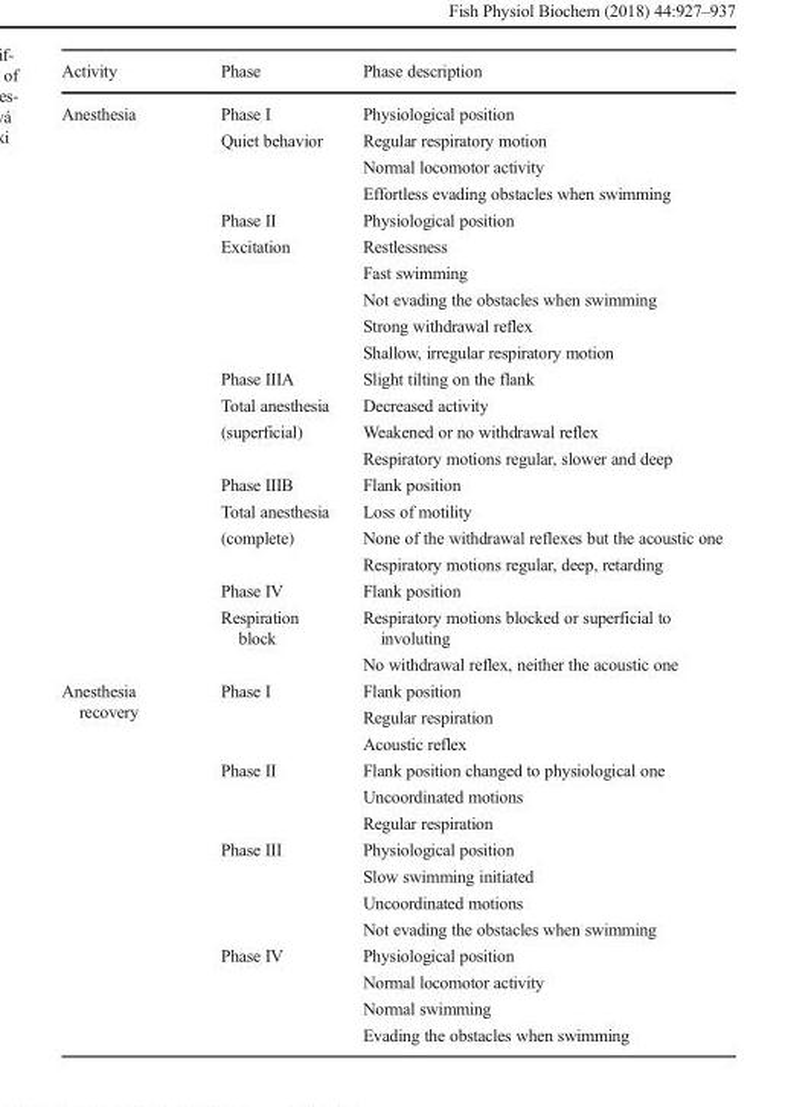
<table><thead><tr><td>Activity</td><td>Phase</td><td>Phase description</td></tr></thead><tbody><tr><td rowspan="5">Anesthesia</td><td>Phase I Quiet behavior</td><td>Physiological position Regular respiratory motion Normal locomotor activity Effortless evading obstacles when swimming</td></tr><tr><td>Phase II Excitation</td><td>Physiological position Restlessness Fast swimming Not evading the obstacles when swimming Strong withdrawal reflex Shallow, irregular respiratory motion</td></tr><tr><td>Phase IIIA Total anesthesia (superficial)</td><td>Slight tilting on the flank Decreased activity Weakened or no withdrawal reflex Respiratory motions regular, slower and deep</td></tr><tr><td>Phase IIIB Total anesthesia (complete)</td><td>Flank position Loss of motility None of the withdrawal reflexes but the acoustic one Respiratory motions regular, deep, retarding</td></tr><tr><td>Phase IV Respiration block</td><td>Flank position Respiratory motions blocked or superficial to involuting No withdrawal reflex, neither the acoustic one</td></tr><tr><td rowspan="4">Anesthesia recovery</td><td>Phase I</td><td>Flank position Regular respiration Acoustic reflex</td></tr><tr><td>Phase II</td><td>Flank position changed to physiological one Uncoordinated motions Regular respiration</td></tr><tr><td>Phase III</td><td>Physiological position Slow swimming initiated Uncoordinated motions Not evading the obstacles when swimming</td></tr><tr><td>Phase IV</td><td>Physiological position Normal locomotor activity Normal swimming Evading the obstacles when swimming</td></tr></tbody></table>